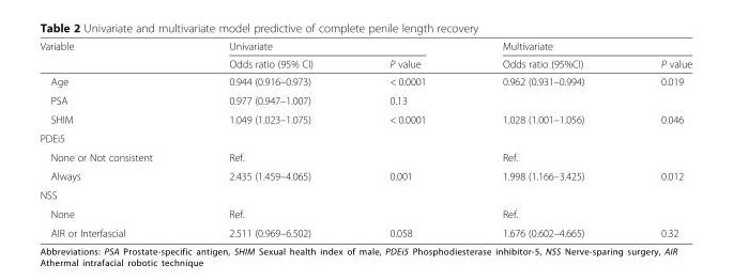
<table><thead><tr><td rowspan="2">Variable</td><td colspan="2">Univariate</td><td colspan="2">Multivariate</td></tr><tr><td>Odds ratio (95% CI)</td><td>P value</td><td>Odds ratio (95%CI)</td><td>P value</td></tr></thead><tbody><tr><td>Age</td><td>0.944 (0.916–0.973)</td><td>&lt; 0.0001</td><td>0.962 (0.931–0.994)</td><td>0.019</td></tr><tr><td>PSA</td><td>0.977 (0.947–1.007)</td><td>0.13</td><td></td><td></td></tr><tr><td>SHIM</td><td>1.049 (1.023–1.075)</td><td>&lt; 0.0001</td><td>1.028 (1.001–1.056)</td><td>0.046</td></tr><tr><td colspan="5">PDEi5</td></tr><tr><td>None or Not consistent</td><td>Ref.</td><td></td><td>Ref.</td><td></td></tr><tr><td>Always</td><td>2.435 (1.459–4.065)</td><td>0.001</td><td>1.998 (1.166–3.425)</td><td>0.012</td></tr><tr><td colspan="5">NSS</td></tr><tr><td>None</td><td>Ref.</td><td></td><td>Ref.</td><td></td></tr><tr><td>AIR or Interfascial</td><td>2.511 (0.969–6.502)</td><td>0.058</td><td>1.676 (0.602–4.665)</td><td>0.32</td></tr></tbody></table>